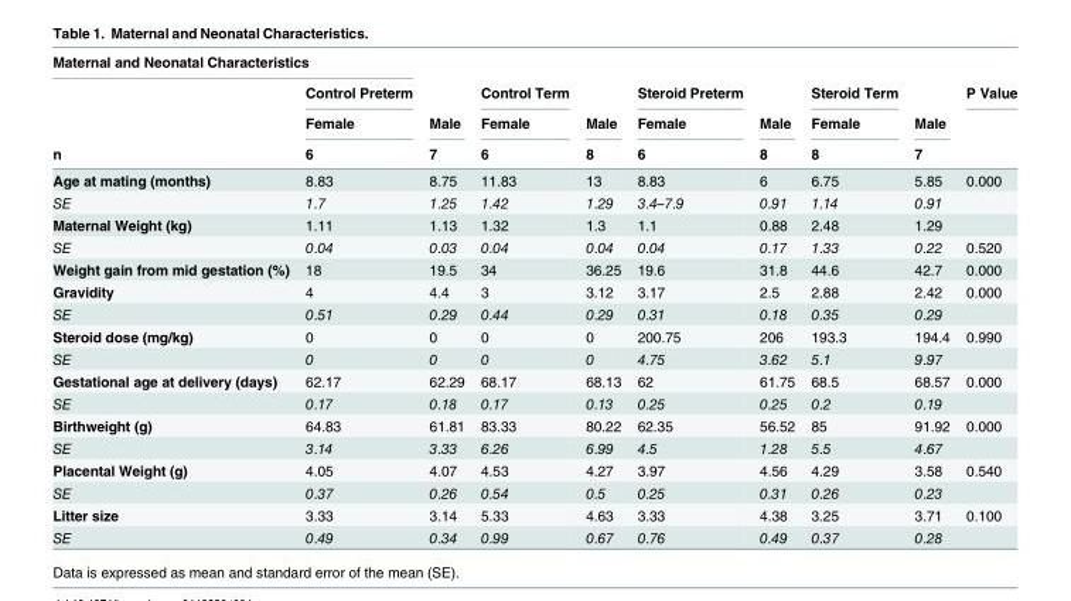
<table><thead><tr><td colspan="2">Maternal and Neonatal Characteristics</td><td rowspan="4">Male 7</td><td rowspan="4">Control Term Female 6</td><td rowspan="4">Male 8</td><td rowspan="4">Steroid Preterm Female 6</td><td rowspan="4">Male 8</td><td rowspan="4">Steroid Term Female 8</td><td rowspan="4">Male 7</td><td rowspan="4">P Value</td></tr><tr><td rowspan="3">n</td><td rowspan="3">Control Preterm Female 6</td></tr><tr></tr><tr></tr></thead><tbody><tr><td>Age at mating (months)</td><td>8.83</td><td>8.75</td><td>11.83</td><td>13</td><td>8.83</td><td>6</td><td>6.75</td><td>5.85</td><td>0.000</td></tr><tr><td>SE</td><td>1.7</td><td>1.25</td><td>1.42</td><td>1.29</td><td>3.4–7.9</td><td>0.91</td><td>1.14</td><td>0.91</td><td></td></tr><tr><td>Maternal Weight (kg)</td><td>1.11</td><td>1.13</td><td>1.32</td><td>1.3</td><td>1.1</td><td>0.88</td><td>2.48</td><td>1.29</td><td></td></tr><tr><td>SE</td><td>0.04</td><td>0.03</td><td>0.04</td><td>0.04</td><td>0.04</td><td>0.17</td><td>1.33</td><td>0.22</td><td>0.520</td></tr><tr><td>Weight gain from mid gestation (%)</td><td>18</td><td>19.5</td><td>34</td><td>36.25</td><td>19.6</td><td>31.8</td><td>44.6</td><td>42.7</td><td>0.000</td></tr><tr><td>Gravidity</td><td>4</td><td>4.4</td><td>3</td><td>3.12</td><td>3.17</td><td>2.5</td><td>2.88</td><td>2.42</td><td>0.000</td></tr><tr><td>SE</td><td>0.51</td><td>0.29</td><td>0.44</td><td>0.29</td><td>0.31</td><td>0.18</td><td>0.35</td><td>0.29</td><td></td></tr><tr><td>Steroid dose (mg/kg)</td><td>0</td><td>0</td><td>0</td><td>0</td><td>200.75</td><td>206</td><td>193.3</td><td>194.4</td><td>0.990</td></tr><tr><td>SE</td><td>0</td><td>0</td><td>0</td><td>0</td><td>4.75</td><td>3.62</td><td>5.1</td><td>9.97</td><td></td></tr><tr><td>Gestational age at delivery (days)</td><td>62.17</td><td>62.29</td><td>68.17</td><td>68.13</td><td>62</td><td>61.75</td><td>68.5</td><td>68.57</td><td>0.000</td></tr><tr><td>SE</td><td>0.17</td><td>0.18</td><td>0.17</td><td>0.13</td><td>0.25</td><td>0.25</td><td>0.2</td><td>0.19</td><td></td></tr><tr><td>Birthweight (g)</td><td>64.83</td><td>61.81</td><td>83.33</td><td>80.22</td><td>62.35</td><td>56.52</td><td>85</td><td>91.92</td><td>0.000</td></tr><tr><td>SE</td><td>3.14</td><td>3.33</td><td>6.26</td><td>6.99</td><td>4.5</td><td>1.28</td><td>5.5</td><td>4.67</td><td></td></tr><tr><td>Placental Weight (g)</td><td>4.05</td><td>4.07</td><td>4.53</td><td>4.27</td><td>3.97</td><td>4.56</td><td>4.29</td><td>3.58</td><td>0.540</td></tr><tr><td>SE</td><td>0.37</td><td>0.26</td><td>0.54</td><td>0.5</td><td>0.25</td><td>0.31</td><td>0.26</td><td>0.23</td><td></td></tr><tr><td>Litter size</td><td>3.33</td><td>3.14</td><td>5.33</td><td>4.63</td><td>3.33</td><td>4.38</td><td>3.25</td><td>3.71</td><td>0.100</td></tr><tr><td>SE</td><td>0.49</td><td>0.34</td><td>0.99</td><td>0.67</td><td>0.76</td><td>0.49</td><td>0.37</td><td>0.28</td><td></td></tr></tbody></table>